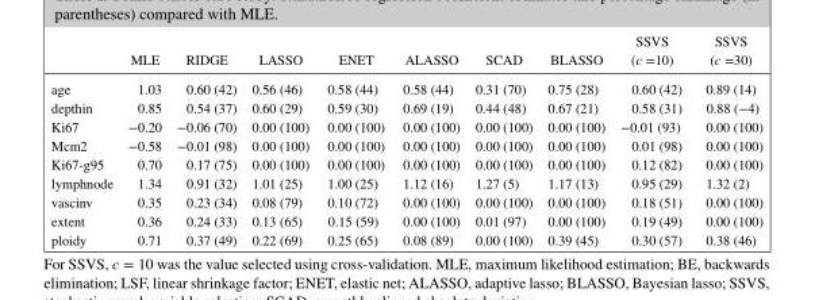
<table><thead><tr><td></td><td>MLE</td><td>RIDGE</td><td>LASSO</td><td>ENET</td><td>ALASSO</td><td>SCAD</td><td>BLASSO</td><td>(c =10)</td><td>(c =30)</td></tr></thead><tbody><tr><td>age</td><td>1.03</td><td>0.60 (42)</td><td>0.56 (46)</td><td>0.58 (44)</td><td>0.58 (44)</td><td>0.31 (70)</td><td>0.75 (28)</td><td>0.60 (42)</td><td>0.89 (14)</td></tr><tr><td>depthin</td><td>0.85</td><td>0.54 (37)</td><td>0.60 (29)</td><td>0.59 (30)</td><td>0.69 (19)</td><td>0.44 (48)</td><td>0.67 (21)</td><td>0.58 (31)</td><td>0.88 (−4)</td></tr><tr><td>Ki67</td><td>−0.20</td><td>−0.06 (70)</td><td>0.00 (100)</td><td>0.00 (100)</td><td>0.00 (100)</td><td>0.00 (100)</td><td>0.00 (100)</td><td>−0.01 (93)</td><td>0.00 (100)</td></tr><tr><td>Mcm2</td><td>−0.58</td><td>−0.01 (98)</td><td>0.00 (100)</td><td>0.00 (100)</td><td>0.00 (100)</td><td>0.00 (100)</td><td>0.00 (100)</td><td>0.01 (98)</td><td>0.00 (100)</td></tr><tr><td>Ki67-g95</td><td>0.70</td><td>0.17 (75)</td><td>0.00 (100)</td><td>0.00 (100)</td><td>0.00 (100)</td><td>0.00 (100)</td><td>0.00 (100)</td><td>0.12 (82)</td><td>0.00 (100)</td></tr><tr><td>lymphnode</td><td>1.34</td><td>0.91 (32)</td><td>1.01 (25)</td><td>1.00 (25)</td><td>1.12 (16)</td><td>1.27 (5)</td><td>1.17 (13)</td><td>0.95 (29)</td><td>1.32 (2)</td></tr><tr><td>vascinv</td><td>0.35</td><td>0.23 (34)</td><td>0.08 (79)</td><td>0.10 (72)</td><td>0.00 (100)</td><td>0.00 (100)</td><td>0.00 (100)</td><td>0.18 (51)</td><td>0.00 (100)</td></tr><tr><td>extent</td><td>0.36</td><td>0.24 (33)</td><td>0.13 (65)</td><td>0.15 (59)</td><td>0.00 (100)</td><td>0.01 (97)</td><td>0.00 (100)</td><td>0.19 (49)</td><td>0.00 (100)</td></tr><tr><td>ploidy</td><td>0.71</td><td>0.37 (49)</td><td>0.22 (69)</td><td>0.25 (65)</td><td>0.08 (89)</td><td>0.00 (100)</td><td>0.39 (45)</td><td>0.30 (57)</td><td>0.38 (46)</td></tr></tbody></table>